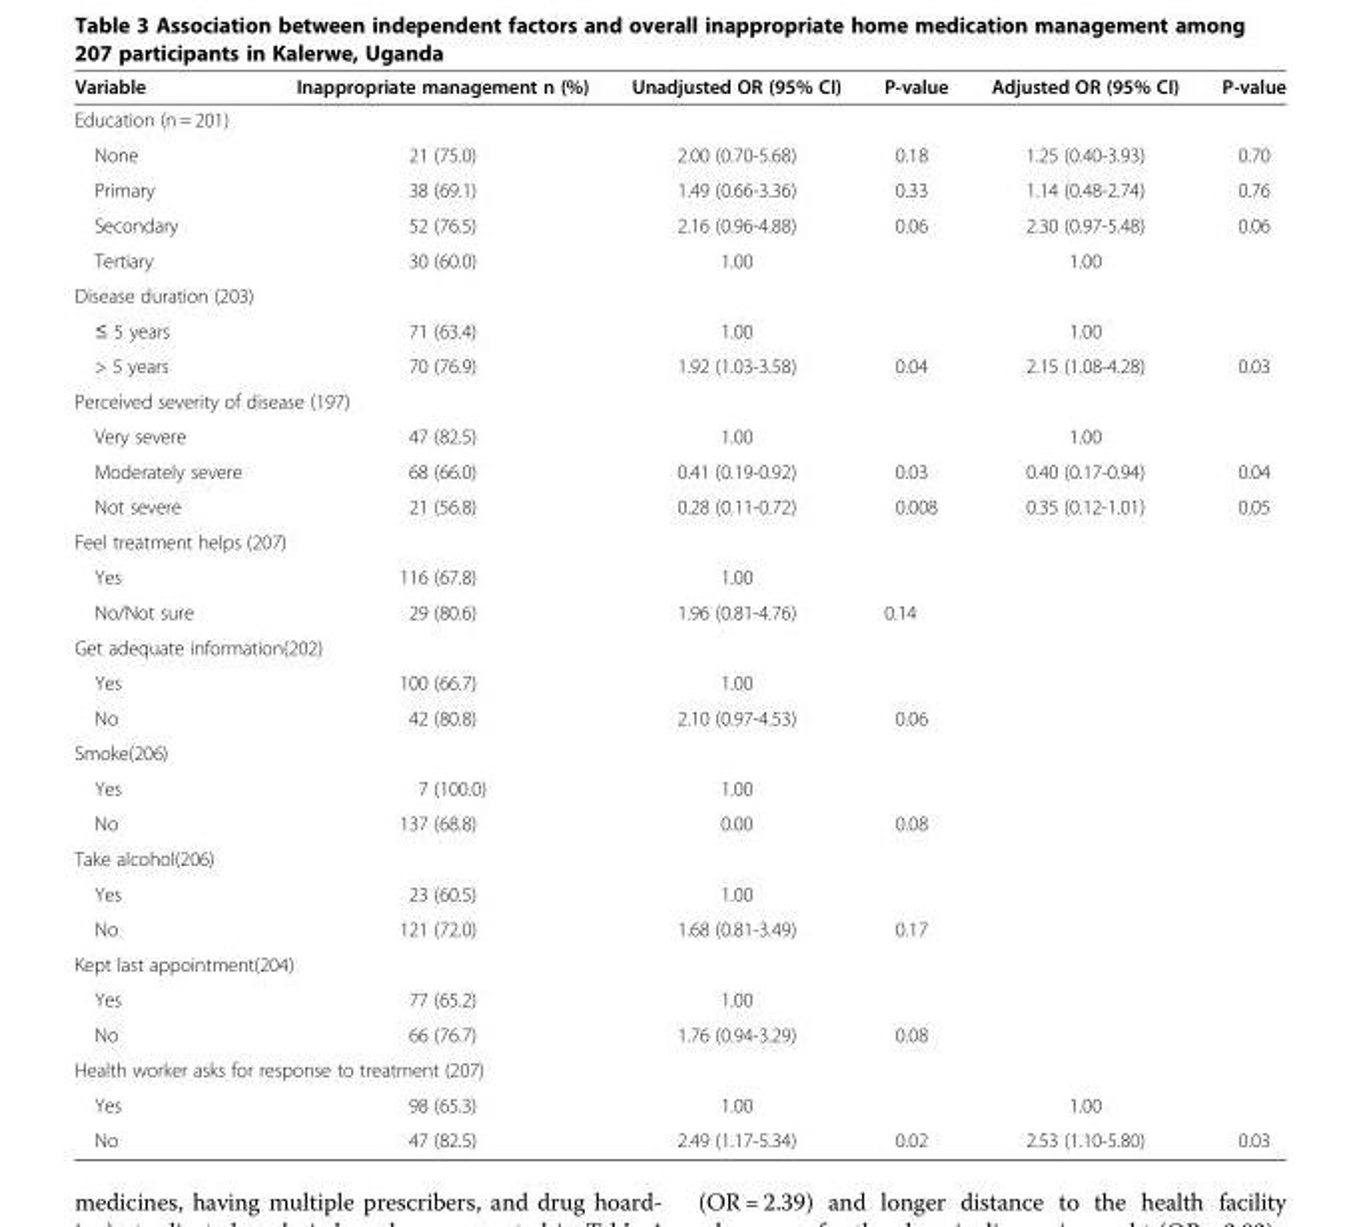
<table><thead><tr><td>Variable</td><td>Inappropriate management n (%)</td><td>Unadjusted OR (95% CI)</td><td>P-value</td><td>Adjusted OR (95% CI)</td><td>P-value</td></tr></thead><tbody><tr><td colspan="6">Education (n = 201)</td></tr><tr><td>None</td><td>21 (75.0)</td><td>2.00 (0.70-5.68)</td><td>0.18</td><td>1.25 (0.40-3.93)</td><td>0.70</td></tr><tr><td>Primary</td><td>38 (69.1)</td><td>1.49 (0.66-3.36)</td><td>0.33</td><td>1.14 (0.48-2.74)</td><td>0.76</td></tr><tr><td>Secondary</td><td>52 (76.5)</td><td>2.16 (0.96-4.88)</td><td>0.06</td><td>2.30 (0.97-5.48)</td><td>0.06</td></tr><tr><td>Tertiary</td><td>30 (60.0)</td><td>1.00</td><td></td><td>1.00</td><td></td></tr><tr><td colspan="6">Disease duration (203)</td></tr><tr><td>≤ 5 years</td><td>71 (63.4)</td><td>1.00</td><td></td><td>1.00</td><td></td></tr><tr><td>&gt; 5 years</td><td>70 (76.9)</td><td>1.92 (1.03-3.58)</td><td>0.04</td><td>2.15 (1.08-4.28)</td><td>0.03</td></tr><tr><td colspan="6">Perceived severity of disease (197)</td></tr><tr><td>Very severe</td><td>47 (82.5)</td><td>1.00</td><td></td><td>1.00</td><td></td></tr><tr><td>Moderately severe</td><td>68 (66.0)</td><td>0.41 (0.19-0.92)</td><td>0.03</td><td>0.40 (0.17-0.94)</td><td>0.04</td></tr><tr><td>Not severe</td><td>21 (56.8)</td><td>0.28 (0.11-0.72)</td><td>0.008</td><td>0.35 (0.12-1.01)</td><td>0.05</td></tr><tr><td colspan="6">Feel treatment helps (207)</td></tr><tr><td>Yes</td><td>116 (67.8)</td><td>1.00</td><td></td><td></td><td></td></tr><tr><td>No/Not sure</td><td>29 (80.6)</td><td>1.96 (0.81-4.76)</td><td>0.14</td><td></td><td></td></tr><tr><td colspan="6">Get adequate information(202)</td></tr><tr><td>Yes</td><td>100 (66.7)</td><td>1.00</td><td></td><td></td><td></td></tr><tr><td>No</td><td>42 (80.8)</td><td>2.10 (0.97-4.53)</td><td>0.06</td><td></td><td></td></tr><tr><td colspan="6">Smoke(206)</td></tr><tr><td>Yes</td><td>7 (100.0)</td><td>1.00</td><td></td><td></td><td></td></tr><tr><td>No</td><td>137 (68.8)</td><td>0.00</td><td>0.08</td><td></td><td></td></tr><tr><td colspan="6">Take alcohol(206)</td></tr><tr><td>Yes</td><td>23 (60.5)</td><td>1.00</td><td></td><td></td><td></td></tr><tr><td>No</td><td>121 (72.0)</td><td>1.68 (0.81-3.49)</td><td>0.17</td><td></td><td></td></tr><tr><td colspan="6">Kept last appointment(204)</td></tr><tr><td>Yes</td><td>77 (65.2)</td><td>1.00</td><td></td><td></td><td></td></tr><tr><td>No</td><td>66 (76.7)</td><td>1.76 (0.94-3.29)</td><td>0.08</td><td></td><td></td></tr><tr><td colspan="6">Health worker asks for response to treatment (207)</td></tr><tr><td>Yes</td><td>98 (65.3)</td><td>1.00</td><td></td><td>1.00</td><td></td></tr><tr><td>No</td><td>47 (82.5)</td><td>2.49 (1.17-5.34)</td><td>0.02</td><td>2.53 (1.10-5.80)</td><td>0.03</td></tr></tbody></table>